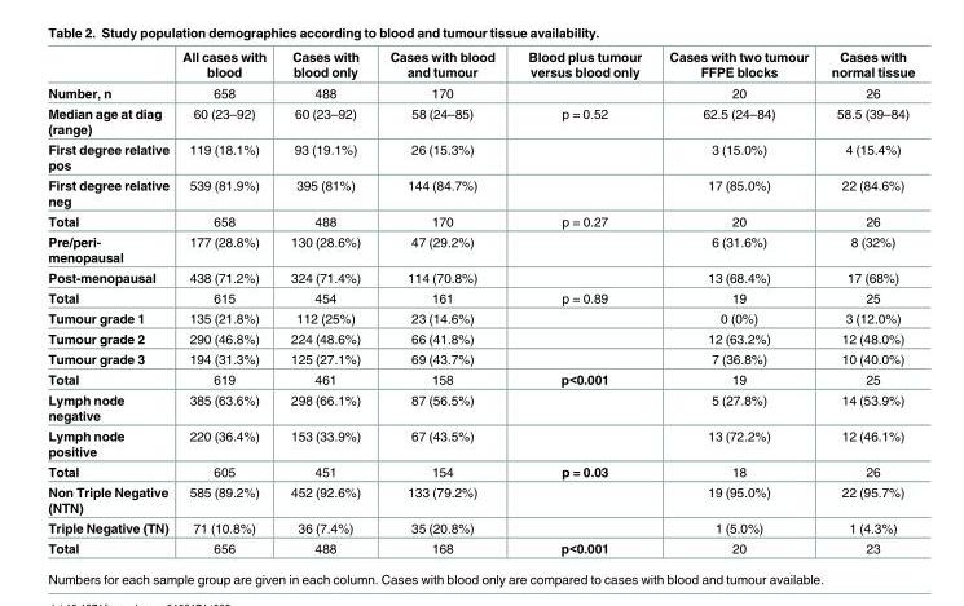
<table><thead><tr><td></td><td>All cases with blood</td><td>Cases with blood only</td><td>Cases with blood and tumour</td><td>Blood plus tumour versus blood only</td><td>Cases with two tumour FFPE blocks</td><td>Cases with normal tissue</td></tr></thead><tbody><tr><td>Number, n</td><td>658</td><td>488</td><td>170</td><td></td><td>20</td><td>26</td></tr><tr><td>Median age at diag (range)</td><td>60 (23–92)</td><td>60 (23–92)</td><td>58 (24–85)</td><td>p = 0.52</td><td>62.5 (24–84)</td><td>58.5 (39–84)</td></tr><tr><td>First degree relative pos</td><td>119 (18.1%)</td><td>93 (19.1%)</td><td>26 (15.3%)</td><td></td><td>3 (15.0%)</td><td>4 (15.4%)</td></tr><tr><td>First degree relative neg</td><td>539 (81.9%)</td><td>395 (81%)</td><td>144 (84.7%)</td><td></td><td>17 (85.0%)</td><td>22 (84.6%)</td></tr><tr><td>Total</td><td>658</td><td>488</td><td>170</td><td>p = 0.27</td><td>20</td><td>26</td></tr><tr><td>Pre/peri- menopausal</td><td>177 (28.8%)</td><td>130 (28.6%)</td><td>47 (29.2%)</td><td></td><td>6 (31.6%)</td><td>8 (32%)</td></tr><tr><td>Post-menopausal</td><td>438 (71.2%)</td><td>324 (71.4%)</td><td>114 (70.8%)</td><td></td><td>13 (68.4%)</td><td>17 (68%)</td></tr><tr><td>Total</td><td>615</td><td>454</td><td>161</td><td>p = 0.89</td><td>19</td><td>25</td></tr><tr><td>Tumour grade 1</td><td>135 (21.8%)</td><td>112 (25%)</td><td>23 (14.6%)</td><td></td><td>0 (0%)</td><td>3 (12.0%)</td></tr><tr><td>Tumour grade 2</td><td>290 (46.8%)</td><td>224 (48.6%)</td><td>66 (41.8%)</td><td></td><td>12 (63.2%)</td><td>12 (48.0%)</td></tr><tr><td>Tumour grade 3</td><td>194 (31.3%)</td><td>125 (27.1%)</td><td>69 (43.7%)</td><td></td><td>7 (36.8%)</td><td>10 (40.0%)</td></tr><tr><td>Total</td><td>619</td><td>461</td><td>158</td><td>p&lt;0.001</td><td>19</td><td>25</td></tr><tr><td>Lymph node negative</td><td>385 (63.6%)</td><td>298 (66.1%)</td><td>87 (56.5%)</td><td></td><td>5 (27.8%)</td><td>14 (53.9%)</td></tr><tr><td>Lymph node positive</td><td>220 (36.4%)</td><td>153 (33.9%)</td><td>67 (43.5%)</td><td></td><td>13 (72.2%)</td><td>12 (46.1%)</td></tr><tr><td>Total</td><td>605</td><td>451</td><td>154</td><td>p = 0.03</td><td>18</td><td>26</td></tr><tr><td>Non Triple Negative (NTN)</td><td>585 (89.2%)</td><td>452 (92.6%)</td><td>133 (79.2%)</td><td></td><td>19 (95.0%)</td><td>22 (95.7%)</td></tr><tr><td>Triple Negative (TN)</td><td>71 (10.8%)</td><td>36 (7.4%)</td><td>35 (20.8%)</td><td></td><td>1 (5.0%)</td><td>1 (4.3%)</td></tr><tr><td>Total</td><td>656</td><td>488</td><td>168</td><td>p&lt;0.001</td><td>20</td><td>23</td></tr></tbody></table>